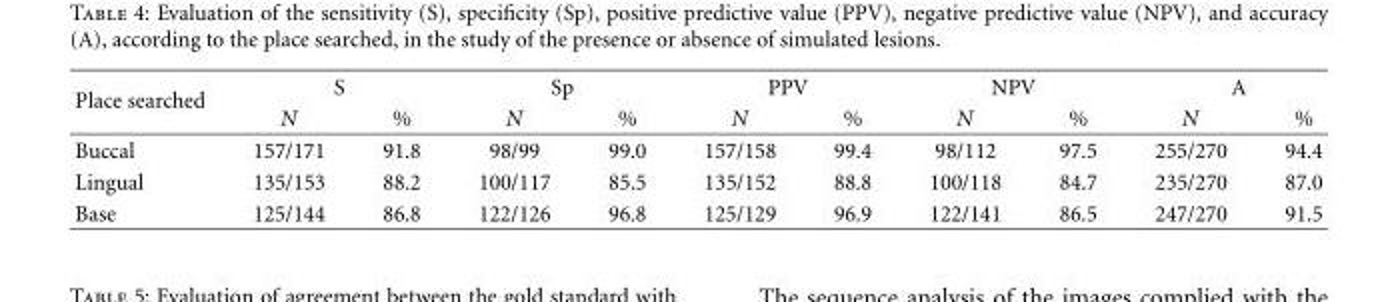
<table><thead><tr><td rowspan="2">Place searched</td><td colspan="2">S</td><td colspan="2">Sp</td><td colspan="2">PPV</td><td colspan="2">NPV</td><td colspan="2">A</td></tr><tr><td>N</td><td>%</td><td>N</td><td>%</td><td>N</td><td>%</td><td>N</td><td>%</td><td>N</td><td>%</td></tr></thead><tbody><tr><td>Buccal</td><td>157/171</td><td>91.8</td><td>98/99</td><td>99.0</td><td>157/158</td><td>99.4</td><td>98/112</td><td>97.5</td><td>255/270</td><td>94.4</td></tr><tr><td>Lingual</td><td>135/153</td><td>88.2</td><td>100/117</td><td>85.5</td><td>135/152</td><td>88.8</td><td>100/118</td><td>84.7</td><td>235/270</td><td>87.0</td></tr><tr><td>Base</td><td>125/144</td><td>86.8</td><td>122/126</td><td>96.8</td><td>125/129</td><td>96.9</td><td>122/141</td><td>86.5</td><td>247/270</td><td>91.5</td></tr></tbody></table>